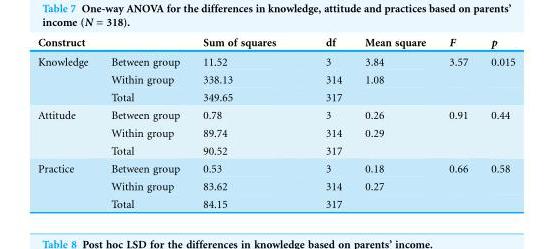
<table><thead><tr><td>Construct</td><td></td><td>Sum of squares</td><td>df</td><td>Mean square</td><td>F</td><td>p</td></tr></thead><tbody><tr><td rowspan="3">Knowledge</td><td>Between group</td><td>11.52</td><td>3</td><td>3.84</td><td rowspan="2">3.57</td><td rowspan="2">0.015</td></tr><tr><td>Within group</td><td>338.13</td><td>314</td><td>1.08</td></tr><tr><td>Total</td><td>349.65</td><td>317</td><td></td><td></td><td></td></tr><tr><td rowspan="3">Attitude</td><td>Between group</td><td>0.78</td><td>3</td><td>0.26</td><td rowspan="2">0.91</td><td rowspan="2">0.44</td></tr><tr><td>Within group</td><td>89.74</td><td>314</td><td>0.29</td></tr><tr><td>Total</td><td>90.52</td><td>317</td><td></td><td></td><td></td></tr><tr><td rowspan="3">Practice</td><td>Between group</td><td>0.53</td><td>3</td><td>0.18</td><td rowspan="2">0.66</td><td rowspan="2">0.58</td></tr><tr><td>Within group</td><td>83.62</td><td>314</td><td>0.27</td></tr><tr><td>Total</td><td>84.15</td><td>317</td><td></td><td></td><td></td></tr></tbody></table>